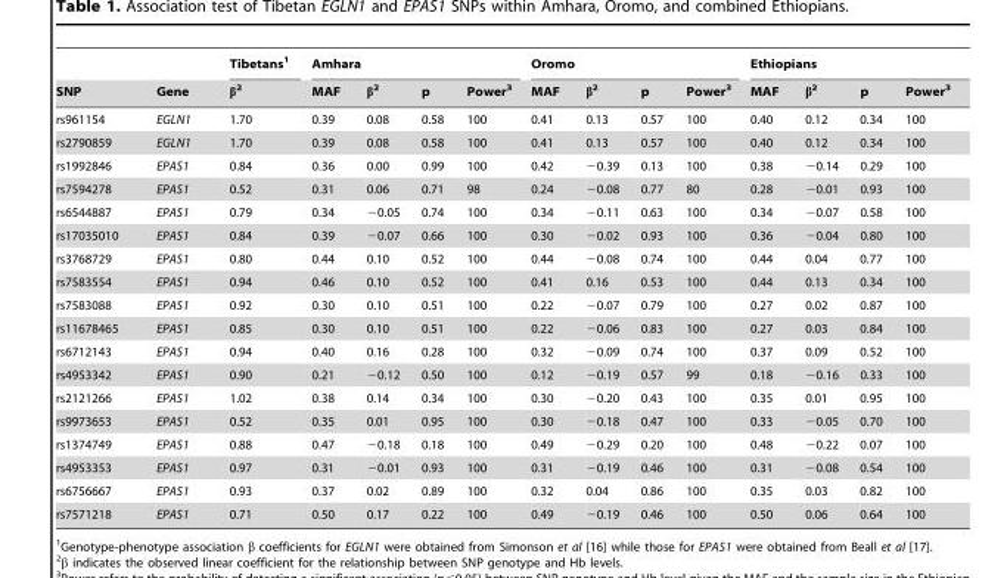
<table><thead><tr><td rowspan="2">SNP</td><td rowspan="2">Gene</td><td rowspan="2">Tibetans<sup>1</sup> β<sup>2</sup></td><td colspan="4">Amhara</td><td colspan="4">Oromo</td><td colspan="4">Ethiopians</td></tr><tr><td>MAF</td><td>β<sup>2</sup></td><td>p</td><td>Power<sup>3</sup></td><td>MAF</td><td>β<sup>2</sup></td><td>p</td><td>Power<sup>3</sup></td><td>MAF</td><td>β<sup>2</sup></td><td>p</td><td>Power<sup>3</sup></td></tr></thead><tbody><tr><td>rs961154</td><td>EGLN1</td><td>1.70</td><td>0.39</td><td>0.08</td><td>0.58</td><td>100</td><td>0.41</td><td>0.13</td><td>0.57</td><td>100</td><td>0.40</td><td>0.12</td><td>0.34</td><td>100</td></tr><tr><td>rs2790859</td><td>EGLN1</td><td>1.70</td><td>0.39</td><td>0.08</td><td>0.58</td><td>100</td><td>0.41</td><td>0.13</td><td>0.57</td><td>100</td><td>0.40</td><td>0.12</td><td>0.34</td><td>100</td></tr><tr><td>rs1992846</td><td>EPAS1</td><td>0.84</td><td>0.36</td><td>0.00</td><td>0.99</td><td>100</td><td>0.42</td><td>−0.39</td><td>0.13</td><td>100</td><td>0.38</td><td>−0.14</td><td>0.29</td><td>100</td></tr><tr><td>rs7594278</td><td>EPAS1</td><td>0.52</td><td>0.31</td><td>0.06</td><td>0.71</td><td>98</td><td>0.24</td><td>−0.08</td><td>0.77</td><td>80</td><td>0.28</td><td>−0.01</td><td>0.93</td><td>100</td></tr><tr><td>rs6544887</td><td>EPAS1</td><td>0.79</td><td>0.34</td><td>−0.05</td><td>0.74</td><td>100</td><td>0.34</td><td>−0.11</td><td>0.63</td><td>100</td><td>0.34</td><td>−0.07</td><td>0.58</td><td>100</td></tr><tr><td>rs17035010</td><td>EPAS1</td><td>0.84</td><td>0.39</td><td>−0.07</td><td>0.66</td><td>100</td><td>0.30</td><td>−0.02</td><td>0.93</td><td>100</td><td>0.36</td><td>−0.04</td><td>0.80</td><td>100</td></tr><tr><td>rs3768729</td><td>EPAS1</td><td>0.80</td><td>0.44</td><td>0.10</td><td>0.52</td><td>100</td><td>0.44</td><td>−0.08</td><td>0.74</td><td>100</td><td>0.44</td><td>0.04</td><td>0.77</td><td>100</td></tr><tr><td>rs7583554</td><td>EPAS1</td><td>0.94</td><td>0.46</td><td>0.10</td><td>0.52</td><td>100</td><td>0.41</td><td>0.16</td><td>0.53</td><td>100</td><td>0.44</td><td>0.13</td><td>0.34</td><td>100</td></tr><tr><td>rs7583088</td><td>EPAS1</td><td>0.92</td><td>0.30</td><td>0.10</td><td>0.51</td><td>100</td><td>0.22</td><td>−0.07</td><td>0.79</td><td>100</td><td>0.27</td><td>0.02</td><td>0.87</td><td>100</td></tr><tr><td>rs11678465</td><td>EPAS1</td><td>0.85</td><td>0.30</td><td>0.10</td><td>0.51</td><td>100</td><td>0.22</td><td>−0.06</td><td>0.83</td><td>100</td><td>0.27</td><td>0.03</td><td>0.84</td><td>100</td></tr><tr><td>rs6712143</td><td>EPAS1</td><td>0.94</td><td>0.40</td><td>0.16</td><td>0.28</td><td>100</td><td>0.32</td><td>−0.09</td><td>0.74</td><td>100</td><td>0.37</td><td>0.09</td><td>0.52</td><td>100</td></tr><tr><td>rs4953342</td><td>EPAS1</td><td>0.90</td><td>0.21</td><td>−0.12</td><td>0.50</td><td>100</td><td>0.12</td><td>−0.19</td><td>0.57</td><td>99</td><td>0.18</td><td>−0.16</td><td>0.33</td><td>100</td></tr><tr><td>rs2121266</td><td>EPAS1</td><td>1.02</td><td>0.38</td><td>0.14</td><td>0.34</td><td>100</td><td>0.30</td><td>−0.20</td><td>0.43</td><td>100</td><td>0.35</td><td>0.01</td><td>0.95</td><td>100</td></tr><tr><td>rs9973653</td><td>EPAS1</td><td>0.52</td><td>0.35</td><td>0.01</td><td>0.95</td><td>100</td><td>0.30</td><td>−0.18</td><td>0.47</td><td>100</td><td>0.33</td><td>−0.05</td><td>0.70</td><td>100</td></tr><tr><td>rs1374749</td><td>EPAS1</td><td>0.88</td><td>0.47</td><td>−0.18</td><td>0.18</td><td>100</td><td>0.49</td><td>−0.29</td><td>0.20</td><td>100</td><td>0.48</td><td>−0.22</td><td>0.07</td><td>100</td></tr><tr><td>rs4953353</td><td>EPAS1</td><td>0.97</td><td>0.31</td><td>−0.01</td><td>0.93</td><td>100</td><td>0.31</td><td>−0.19</td><td>0.46</td><td>100</td><td>0.31</td><td>−0.08</td><td>0.54</td><td>100</td></tr><tr><td>rs6756667</td><td>EPAS1</td><td>0.93</td><td>0.37</td><td>0.02</td><td>0.89</td><td>100</td><td>0.32</td><td>0.04</td><td>0.86</td><td>100</td><td>0.35</td><td>0.03</td><td>0.82</td><td>100</td></tr><tr><td>rs7571218</td><td>EPAS1</td><td>0.71</td><td>0.50</td><td>0.17</td><td>0.22</td><td>100</td><td>0.49</td><td>−0.19</td><td>0.46</td><td>100</td><td>0.50</td><td>0.06</td><td>0.64</td><td>100</td></tr></tbody></table>